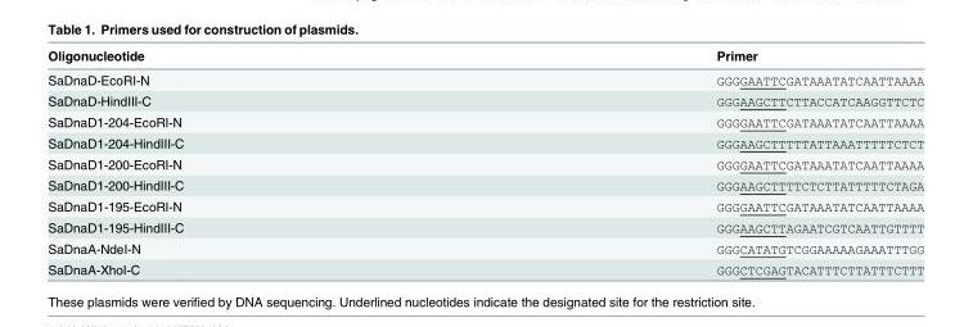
<table><thead><tr><td>Oligonucleotide</td><td>Primer</td></tr></thead><tbody><tr><td>SaDnaD-EcoRI-N</td><td>GGGGAATTCGATAAATATCAATTAAAA</td></tr><tr><td>SaDnaD-HindIII-C</td><td>GGGAAGCTTCTTACCATCAAGGTTCTC</td></tr><tr><td>SaDnaD1-204-EcoRI-N</td><td>GGGGAATTCGATAAATATCAATTAAAA</td></tr><tr><td>SaDnaD1-204-HindIII-C</td><td>GGGAAGCTTTTTATTAAATTTTTCTCT</td></tr><tr><td>SaDnaD1-200-EcoRI-N</td><td>GGGGAATTCGATAAATATCAATTAAAA</td></tr><tr><td>SaDnaD1-200-HindIII-C</td><td>GGGAAGCTTTTCTCTTATTTTTCTAGA</td></tr><tr><td>SaDnaD1-195-EcoRI-N</td><td>GGGGAATTCGATAAATATCAATTAAAA</td></tr><tr><td>SaDnaD1-195-HindIII-C</td><td>GGGAAGCTTAGAATCGTCAATTGTTTT</td></tr><tr><td>SaDnaA-NdeI-N</td><td>GGGCATATGTCGGAAAAAGAAATTTGG</td></tr><tr><td>SaDnaA-XhoI-C</td><td>GGGCTCGAGTACATTTCTTATTTCTTT</td></tr></tbody></table>